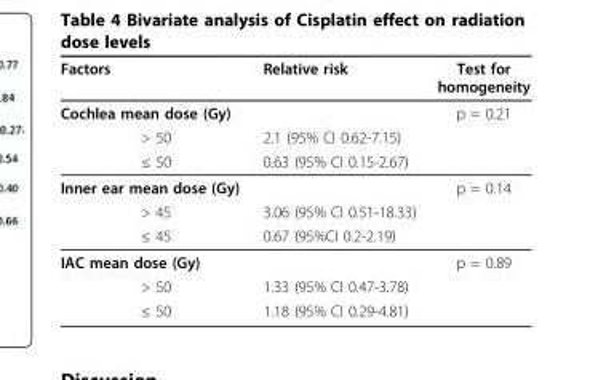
<table><thead><tr><td>Factors</td><td>Relative risk</td><td>Test for homogeneity</td></tr></thead><tbody><tr><td>Cochlea mean dose (Gy)</td><td></td><td>p = 0.21</td></tr><tr><td>&gt; 50</td><td>2.1 (95% CI 0.62-7.15)</td><td></td></tr><tr><td>≤ 50</td><td>0.63 (95% CI 0.15-2.67)</td><td></td></tr><tr><td>Inner ear mean dose (Gy)</td><td></td><td>p = 0.14</td></tr><tr><td>&gt; 45</td><td>3.06 (95% CI 0.51-18.33)</td><td></td></tr><tr><td>≤ 45</td><td>0.67 (95%CI 0.2-2.19)</td><td></td></tr><tr><td>IAC mean dose (Gy)</td><td></td><td>p = 0.89</td></tr><tr><td>&gt; 50</td><td>1.33 (95% CI 0.47-3.78)</td><td></td></tr><tr><td>≤ 50</td><td>1.18 (95% CI 0.29-4.81)</td><td></td></tr></tbody></table>